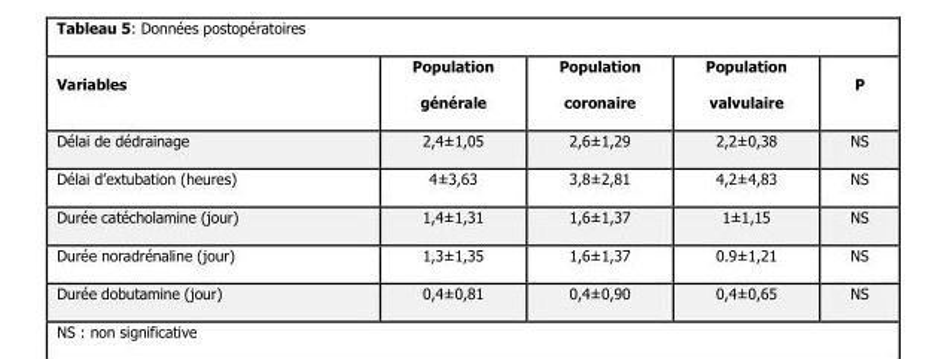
<table><thead><tr><td>Variables</td><td>Population générale</td><td>Population coronaire</td><td>Population valvulaire</td><td>P</td></tr></thead><tbody><tr><td>Délai de dédrainage</td><td>2,4±1,05</td><td>2,6±1,29</td><td>2,2±0,38</td><td>NS</td></tr><tr><td>Délai d’extubation (heures)</td><td>4±3,63</td><td>3,8±2,81</td><td>4,2±4,83</td><td>NS</td></tr><tr><td>Durée catécholamine (jour)</td><td>1,4±1,31</td><td>1,6±1,37</td><td>1±1,15</td><td>NS</td></tr><tr><td>Durée noradrénaline (jour)</td><td>1,3±1,35</td><td>1,6±1,37</td><td>0.9±1,21</td><td>NS</td></tr><tr><td>Durée dobutamine (jour)</td><td>0,4±0,81</td><td>0,4±0,90</td><td>0,4±0,65</td><td>NS</td></tr></tbody></table>